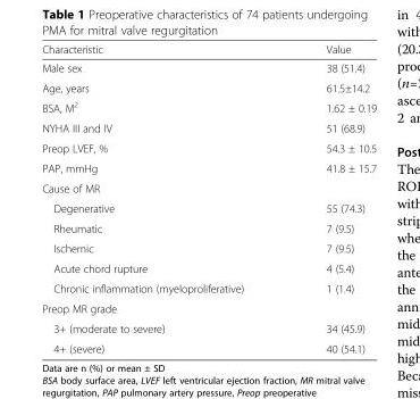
<table><thead><tr><td>Characteristic</td><td>Value</td></tr></thead><tbody><tr><td>Male sex</td><td>38 (51.4)</td></tr><tr><td>Age, years</td><td>61.5±14.2</td></tr><tr><td>BSA, M<sup>2</sup></td><td>1.62 ± 0.19</td></tr><tr><td>NYHA III and IV</td><td>51 (68.9)</td></tr><tr><td>Preop LVEF, %</td><td>54.3 ± 10.5</td></tr><tr><td>PAP, mmHg</td><td>41.8 ± 15.7</td></tr><tr><td colspan="2">Cause of MR</td></tr><tr><td>Degenerative</td><td>55 (74.3)</td></tr><tr><td>Rheumatic</td><td>7 (9.5)</td></tr><tr><td>Ischemic</td><td>7 (9.5)</td></tr><tr><td>Acute chord rupture</td><td>4 (5.4)</td></tr><tr><td>Chronic inflammation (myeloproliferative)</td><td>1 (1.4)</td></tr><tr><td colspan="2">Preop MR grade</td></tr><tr><td>3+ (moderate to severe)</td><td>34 (45.9)</td></tr><tr><td>4+ (severe)</td><td>40 (54.1)</td></tr></tbody></table>